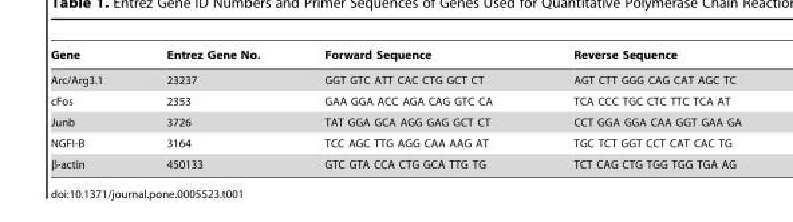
<table><thead><tr><td>Gene</td><td>Entrez Gene No.</td><td>Forward Sequence</td><td>Reverse Sequence</td></tr></thead><tbody><tr><td>Arc/Arg3.1</td><td>23237</td><td>GGT GTC ATT CAC CTG GCT CT</td><td>AGT CTT GGG CAG CAT AGC TC</td></tr><tr><td>cFos</td><td>2353</td><td>GAA GGA ACC AGA CAG GTC CA</td><td>TCA CCC TGC CTC TTC TCA AT</td></tr><tr><td>Junb</td><td>3726</td><td>TAT GGA GCA AGG GAG GCT CT</td><td>CCT GGA GGA CAA GGT GAA GA</td></tr><tr><td>NGFI-B</td><td>3164</td><td>TCC AGC TTG AGG CAA AAG AT</td><td>TGC TCT GGT CCT CAT CAC TG</td></tr><tr><td>β-actin</td><td>450133</td><td>GTC GTA CCA CTG GCA TTG TG</td><td>TCT CAG CTG TGG TGG TGA AG</td></tr></tbody></table>